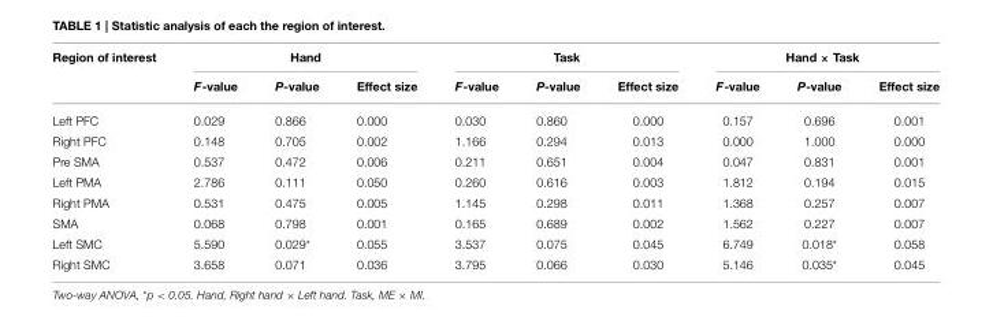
<table><thead><tr><td rowspan="2">Region of interest</td><td colspan="3">Hand</td><td colspan="3">Task</td><td colspan="3">Hand × Task</td></tr><tr><td>F-value</td><td>P-value</td><td>Effect size</td><td>F-value</td><td>P-value</td><td>Effect size</td><td>F-value</td><td>P-value</td><td>Effect size</td></tr></thead><tbody><tr><td>Left PFC</td><td>0.029</td><td>0.866</td><td>0.000</td><td>0.030</td><td>0.860</td><td>0.000</td><td>0.157</td><td>0.696</td><td>0.001</td></tr><tr><td>Right PFC</td><td>0.148</td><td>0.705</td><td>0.002</td><td>1.166</td><td>0.294</td><td>0.013</td><td>0.000</td><td>1.000</td><td>0.000</td></tr><tr><td>Pre SMA</td><td>0.537</td><td>0.472</td><td>0.006</td><td>0.211</td><td>0.651</td><td>0.004</td><td>0.047</td><td>0.831</td><td>0.001</td></tr><tr><td>Left PMA</td><td>2.786</td><td>0.111</td><td>0.050</td><td>0.260</td><td>0.616</td><td>0.003</td><td>1.812</td><td>0.194</td><td>0.015</td></tr><tr><td>Right PMA</td><td>0.531</td><td>0.475</td><td>0.005</td><td>1.145</td><td>0.298</td><td>0.011</td><td>1.368</td><td>0.257</td><td>0.007</td></tr><tr><td>SMA</td><td>0.068</td><td>0.798</td><td>0.001</td><td>0.165</td><td>0.689</td><td>0.002</td><td>1.562</td><td>0.227</td><td>0.007</td></tr><tr><td>Left SMC</td><td>5.590</td><td>0.029*</td><td>0.055</td><td>3.537</td><td>0.075</td><td>0.045</td><td>6.749</td><td>0.018*</td><td>0.058</td></tr><tr><td>Right SMC</td><td>3.658</td><td>0.071</td><td>0.036</td><td>3.795</td><td>0.066</td><td>0.030</td><td>5.146</td><td>0.035*</td><td>0.045</td></tr></tbody></table>